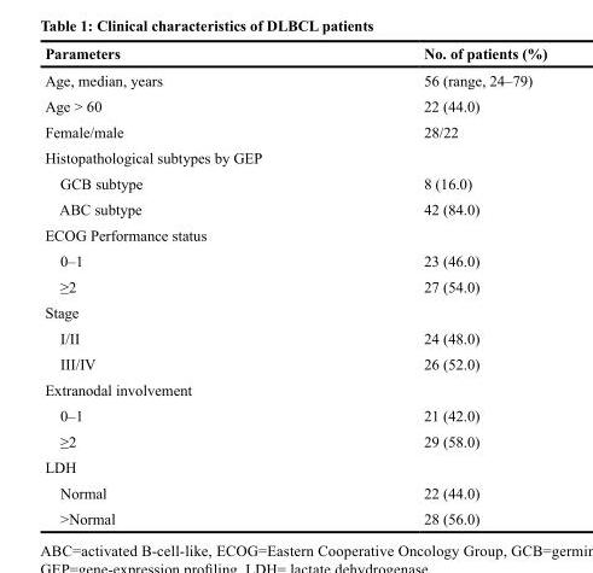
<table><thead><tr><td>Parameters</td><td>No. of patients (%)</td></tr></thead><tbody><tr><td>Age, median, years</td><td>56 (range, 24–79)</td></tr><tr><td>Age &gt; 60</td><td>22 (44.0)</td></tr><tr><td>Female/male</td><td>28/22</td></tr><tr><td colspan="2">Histopathological subtypes by GEP</td></tr><tr><td>GCB subtype</td><td>8 (16.0)</td></tr><tr><td>ABC subtype</td><td>42 (84.0)</td></tr><tr><td colspan="2">ECOG Performance status</td></tr><tr><td>0–1</td><td>23 (46.0)</td></tr><tr><td>≥2</td><td>27 (54.0)</td></tr><tr><td colspan="2">Stage</td></tr><tr><td>I/II</td><td>24 (48.0)</td></tr><tr><td>III/IV</td><td>26 (52.0)</td></tr><tr><td colspan="2">Extranodal involvement</td></tr><tr><td>0–1</td><td>21 (42.0)</td></tr><tr><td>≥2</td><td>29 (58.0)</td></tr><tr><td colspan="2">LDH</td></tr><tr><td>Normal</td><td>22 (44.0)</td></tr><tr><td>&gt;Normal</td><td>28 (56.0)</td></tr></tbody></table>